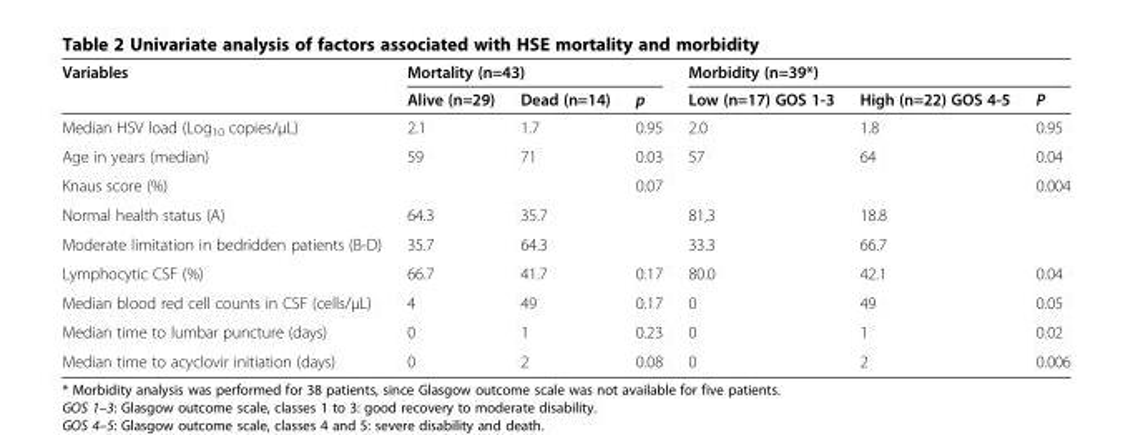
<table><thead><tr><td rowspan="2">Variables</td><td colspan="3">Mortality (n=43)</td><td colspan="3">Morbidity (n=39*)</td></tr><tr><td>Alive (n=29)</td><td>Dead (n=14)</td><td>p</td><td>Low (n=17) GOS 1-3</td><td>High (n=22) GOS 4-5</td><td>P</td></tr></thead><tbody><tr><td>Median HSV load (Log<sub>10</sub> copies/μL)</td><td>2.1</td><td>1.7</td><td>0.95</td><td>2.0</td><td>1.8</td><td>0.95</td></tr><tr><td>Age in years (median)</td><td>59</td><td>71</td><td>0.03</td><td>57</td><td>64</td><td>0.04</td></tr><tr><td>Knaus score (%)</td><td></td><td></td><td>0.07</td><td></td><td></td><td>0.004</td></tr><tr><td>Normal health status (A)</td><td>64.3</td><td>35.7</td><td></td><td>81,3</td><td>18.8</td><td></td></tr><tr><td>Moderate limitation in bedridden patients (B-D)</td><td>35.7</td><td>64.3</td><td></td><td>33.3</td><td>66.7</td><td></td></tr><tr><td>Lymphocytic CSF (%)</td><td>66.7</td><td>41.7</td><td>0.17</td><td>80.0</td><td>42.1</td><td>0.04</td></tr><tr><td>Median blood red cell counts in CSF (cells/μL)</td><td>4</td><td>49</td><td>0.17</td><td>0</td><td>49</td><td>0.05</td></tr><tr><td>Median time to lumbar puncture (days)</td><td>0</td><td>1</td><td>0.23</td><td>0</td><td>1</td><td>0.02</td></tr><tr><td>Median time to acyclovir initiation (days)</td><td>0</td><td>2</td><td>0.08</td><td>0</td><td>2</td><td>0.006</td></tr></tbody></table>